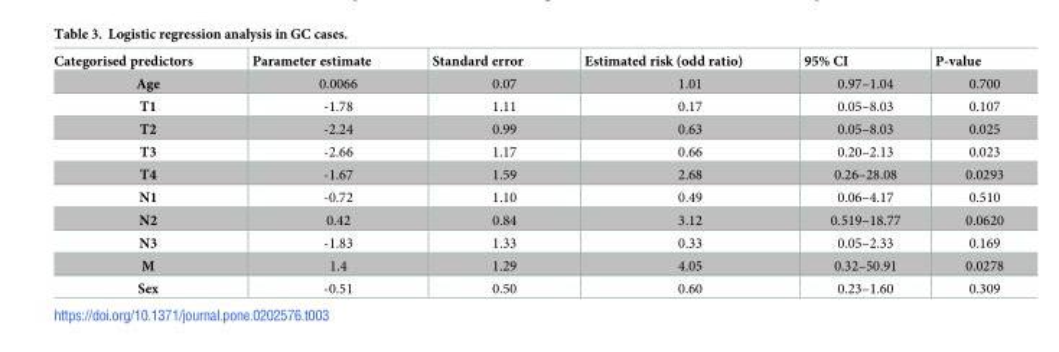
<table><thead><tr><td>Categorised predictors</td><td>Parameter estimate</td><td>Standard error</td><td>Estimated risk (odd ratio)</td><td>95% CI</td><td>P-value</td></tr></thead><tbody><tr><td>Age</td><td>0.0066</td><td>0.07</td><td>1.01</td><td>0.97–1.04</td><td>0.700</td></tr><tr><td>T1</td><td>-1.78</td><td>1.11</td><td>0.17</td><td>0.05–8.03</td><td>0.107</td></tr><tr><td>T2</td><td>-2.24</td><td>0.99</td><td>0.63</td><td>0.05–8.03</td><td>0.025</td></tr><tr><td>T3</td><td>-2.66</td><td>1.17</td><td>0.66</td><td>0.20–2.13</td><td>0.023</td></tr><tr><td>T4</td><td>-1.67</td><td>1.59</td><td>2.68</td><td>0.26–28.08</td><td>0.0293</td></tr><tr><td>N1</td><td>-0.72</td><td>1.10</td><td>0.49</td><td>0.06–4.17</td><td>0.510</td></tr><tr><td>N2</td><td>0.42</td><td>0.84</td><td>3.12</td><td>0.519–18.77</td><td>0.0620</td></tr><tr><td>N3</td><td>-1.83</td><td>1.33</td><td>0.33</td><td>0.05–2.33</td><td>0.169</td></tr><tr><td>M</td><td>1.4</td><td>1.29</td><td>4.05</td><td>0.32–50.91</td><td>0.0278</td></tr><tr><td>Sex</td><td>-0.51</td><td>0.50</td><td>0.60</td><td>0.23–1.60</td><td>0.309</td></tr></tbody></table>